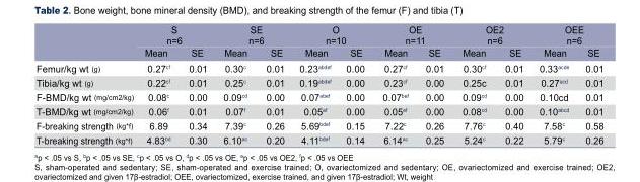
<table><thead><tr><td rowspan="2"></td><td colspan="2">n=6</td><td colspan="2">n=6</td><td colspan="2">n=10</td><td colspan="2">n=11</td><td colspan="2">n=6</td><td colspan="2">n=6</td></tr><tr><td>Mean</td><td>SE</td><td>Mean</td><td>SE</td><td>Mean</td><td>SE</td><td>Mean</td><td>SE</td><td>Mean</td><td>SE</td><td>Mean</td><td>SE</td></tr></thead><tbody><tr><td>Femur/kg wt (g)</td><td>0.27<sup>cf</sup></td><td>0.01</td><td>0.30<sup>c</sup></td><td>0.01</td><td>0.23<sup>abdef</sup></td><td>0.00</td><td>0.27<sup>cf</sup></td><td>0.01</td><td>0.30<sup>cf</sup></td><td>0.01</td><td>0.33<sup>acde</sup></td><td>0.01</td></tr><tr><td>Tibia/kg wt (g)</td><td>0.22<sup>cf</sup></td><td>0.01</td><td>0.25<sup>c</sup></td><td>0.01</td><td>0.19<sup>abdef</sup></td><td>0.00</td><td>0.23<sup>cf</sup></td><td>0.00</td><td>0.25<sup>c</sup></td><td>0.01</td><td>0.27<sup>acd</sup></td><td>0.01</td></tr><tr><td>F-BMD/kg wt (mg/cm2/kg)</td><td>0.08<sup>c</sup></td><td>0.00</td><td>0.09<sup>cd</sup></td><td>0.00</td><td>0.07<sup>abef</sup></td><td>0.00</td><td>0.07<sup>bef</sup></td><td>0.00</td><td>0.09<sup>cd</sup></td><td>0.00</td><td>0.10<sup>cd</sup></td><td>0.01</td></tr><tr><td>T-BMD/kg wt (mg/cm2/kg)</td><td>0.06<sup>f</sup></td><td>0.01</td><td>0.07<sup>f</sup></td><td>0.01</td><td>0.05<sup>ef</sup></td><td>0.00</td><td>0.05<sup>ef</sup></td><td>0.00</td><td>0.08<sup>cd</sup></td><td>0.00</td><td>0.10<sup>abcd</sup></td><td>0.01</td></tr><tr><td>F-breaking strength (kg*f)</td><td>6.89</td><td>0.34</td><td>7.39<sup>c</sup></td><td>0.26</td><td>5.69<sup>bdef</sup></td><td>0.15</td><td>7.22<sup>c</sup></td><td>0.26</td><td>7.76<sup>c</sup></td><td>0.40</td><td>7.58<sup>c</sup></td><td>0.58</td></tr><tr><td>T-breaking strength (kg*f)</td><td>4.83<sup>bd</sup></td><td>0.30</td><td>6.10<sup>ac</sup></td><td>0.20</td><td>4.11<sup>bdef</sup></td><td>0.14</td><td>6.14<sup>ac</sup></td><td>0.25</td><td>5.24<sup>c</sup></td><td>0.22</td><td>5.79<sup>c</sup></td><td>0.26</td></tr></tbody></table>